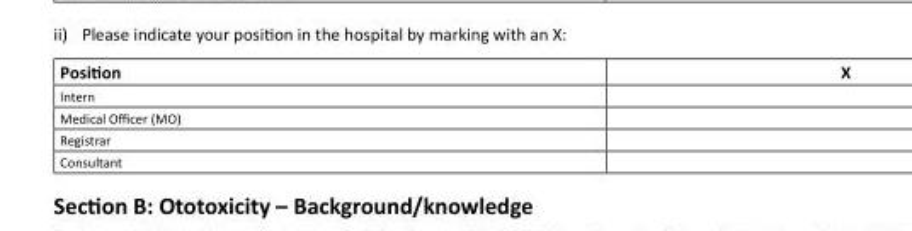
<table><thead><tr><td>Position</td><td>X</td></tr></thead><tbody><tr><td colspan="2">Intern</td></tr><tr><td colspan="2">Medical Officer (MO)</td></tr><tr><td colspan="2">Registrar</td></tr><tr><td>Consultant</td><td></td></tr></tbody></table>